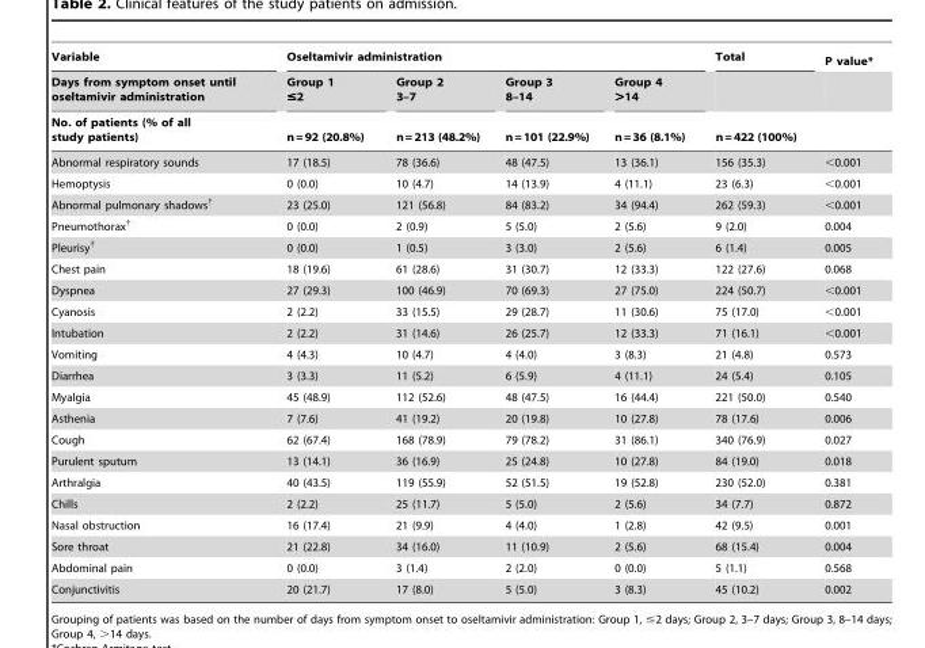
<table><thead><tr><td rowspan="3">Variable Days from symptom onset until oseltamivir administration No. of patients (% of all study patients)</td><td colspan="4">Oseltamivir administration</td><td rowspan="3">Total n=422 (100%)</td><td rowspan="3">P value*</td></tr><tr><td rowspan="2">Group 1 ≤2 n=92 (20.8%)</td><td rowspan="2">Group 2 3–7 n=213 (48.2%)</td><td rowspan="2">Group 3 8–14 n=101 (22.9%)</td><td rowspan="2">Group 4 &gt;14 n=36 (8.1%)</td></tr><tr></tr></thead><tbody><tr><td>Abnormal respiratory sounds</td><td>17 (18.5)</td><td>78 (36.6)</td><td>48 (47.5)</td><td>13 (36.1)</td><td>156 (35.3)</td><td>&lt;0.001</td></tr><tr><td>Hemoptysis</td><td>0 (0.0)</td><td>10 (4.7)</td><td>14 (13.9)</td><td>4 (11.1)</td><td>23 (6.3)</td><td>&lt;0.001</td></tr><tr><td>Abnormal pulmonary shadows†</td><td>23 (25.0)</td><td>121 (56.8)</td><td>84 (83.2)</td><td>34 (94.4)</td><td>262 (59.3)</td><td>&lt;0.001</td></tr><tr><td>Pneumothorax†</td><td>0 (0.0)</td><td>2 (0.9)</td><td>5 (5.0)</td><td>2 (5.6)</td><td>9 (2.0)</td><td>0.004</td></tr><tr><td>Pleurisy†</td><td>0 (0.0)</td><td>1 (0.5)</td><td>3 (3.0)</td><td>2 (5.6)</td><td>6 (1.4)</td><td>0.005</td></tr><tr><td>Chest pain</td><td>18 (19.6)</td><td>61 (28.6)</td><td>31 (30.7)</td><td>12 (33.3)</td><td>122 (27.6)</td><td>0.068</td></tr><tr><td>Dyspnea</td><td>27 (29.3)</td><td>100 (46.9)</td><td>70 (69.3)</td><td>27 (75.0)</td><td>224 (50.7)</td><td>&lt;0.001</td></tr><tr><td>Cyanosis</td><td>2 (2.2)</td><td>33 (15.5)</td><td>29 (28.7)</td><td>11 (30.6)</td><td>75 (17.0)</td><td>&lt;0.001</td></tr><tr><td>Intubation</td><td>2 (2.2)</td><td>31 (14.6)</td><td>26 (25.7)</td><td>12 (33.3)</td><td>71 (16.1)</td><td>&lt;0.001</td></tr><tr><td>Vomiting</td><td>4 (4.3)</td><td>10 (4.7)</td><td>4 (4.0)</td><td>3 (8.3)</td><td>21 (4.8)</td><td>0.573</td></tr><tr><td>Diarrhea</td><td>3 (3.3)</td><td>11 (5.2)</td><td>6 (5.9)</td><td>4 (11.1)</td><td>24 (5.4)</td><td>0.105</td></tr><tr><td>Myalgia</td><td>45 (48.9)</td><td>112 (52.6)</td><td>48 (47.5)</td><td>16 (44.4)</td><td>221 (50.0)</td><td>0.540</td></tr><tr><td>Asthenia</td><td>7 (7.6)</td><td>41 (19.2)</td><td>20 (19.8)</td><td>10 (27.8)</td><td>78 (17.6)</td><td>0.006</td></tr><tr><td>Cough</td><td>62 (67.4)</td><td>168 (78.9)</td><td>79 (78.2)</td><td>31 (86.1)</td><td>340 (76.9)</td><td>0.027</td></tr><tr><td>Purulent sputum</td><td>13 (14.1)</td><td>36 (16.9)</td><td>25 (24.8)</td><td>10 (27.8)</td><td>84 (19.0)</td><td>0.018</td></tr><tr><td>Arthralgia</td><td>40 (43.5)</td><td>119 (55.9)</td><td>52 (51.5)</td><td>19 (52.8)</td><td>230 (52.0)</td><td>0.381</td></tr><tr><td>Chills</td><td>2 (2.2)</td><td>25 (11.7)</td><td>5 (5.0)</td><td>2 (5.6)</td><td>34 (7.7)</td><td>0.872</td></tr><tr><td>Nasal obstruction</td><td>16 (17.4)</td><td>21 (9.9)</td><td>4 (4.0)</td><td>1 (2.8)</td><td>42 (9.5)</td><td>0.001</td></tr><tr><td>Sore throat</td><td>21 (22.8)</td><td>34 (16.0)</td><td>11 (10.9)</td><td>2 (5.6)</td><td>68 (15.4)</td><td>0.004</td></tr><tr><td>Abdominal pain</td><td>0 (0.0)</td><td>3 (1.4)</td><td>2 (2.0)</td><td>0 (0.0)</td><td>5 (1.1)</td><td>0.568</td></tr><tr><td>Conjunctivitis</td><td>20 (21.7)</td><td>17 (8.0)</td><td>5 (5.0)</td><td>3 (8.3)</td><td>45 (10.2)</td><td>0.002</td></tr></tbody></table>